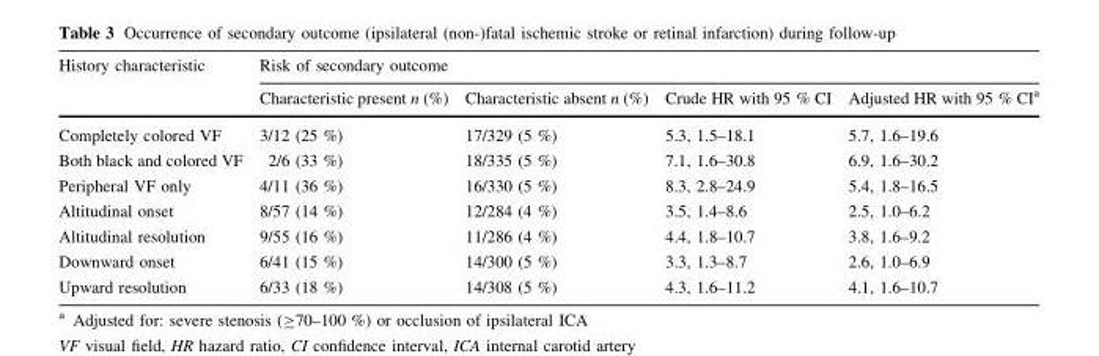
<table><thead><tr><td rowspan="2">History characteristic</td><td colspan="4">Risk of secondary outcome</td></tr><tr><td>Characteristic present n (%)</td><td>Characteristic absent n (%)</td><td>Crude HR with 95 % CI</td><td>Adjusted HR with 95 % CI<sup>a</sup></td></tr></thead><tbody><tr><td>Completely colored VF</td><td>3/12 (25 %)</td><td>17/329 (5 %)</td><td>5.3, 1.5–18.1</td><td>5.7, 1.6–19.6</td></tr><tr><td>Both black and colored VF</td><td>2/6 (33 %)</td><td>18/335 (5 %)</td><td>7.1, 1.6–30.8</td><td>6.9, 1.6–30.2</td></tr><tr><td>Peripheral VF only</td><td>4/11 (36 %)</td><td>16/330 (5 %)</td><td>8.3, 2.8–24.9</td><td>5.4, 1.8–16.5</td></tr><tr><td>Altitudinal onset</td><td>8/57 (14 %)</td><td>12/284 (4 %)</td><td>3.5, 1.4–8.6</td><td>2.5, 1.0–6.2</td></tr><tr><td>Altitudinal resolution</td><td>9/55 (16 %)</td><td>11/286 (4 %)</td><td>4.4, 1.8–10.7</td><td>3.8, 1.6–9.2</td></tr><tr><td>Downward onset</td><td>6/41 (15 %)</td><td>14/300 (5 %)</td><td>3.3, 1.3–8.7</td><td>2.6, 1.0–6.9</td></tr><tr><td>Upward resolution</td><td>6/33 (18 %)</td><td>14/308 (5 %)</td><td>4.3, 1.6–11.2</td><td>4.1, 1.6–10.7</td></tr></tbody></table>